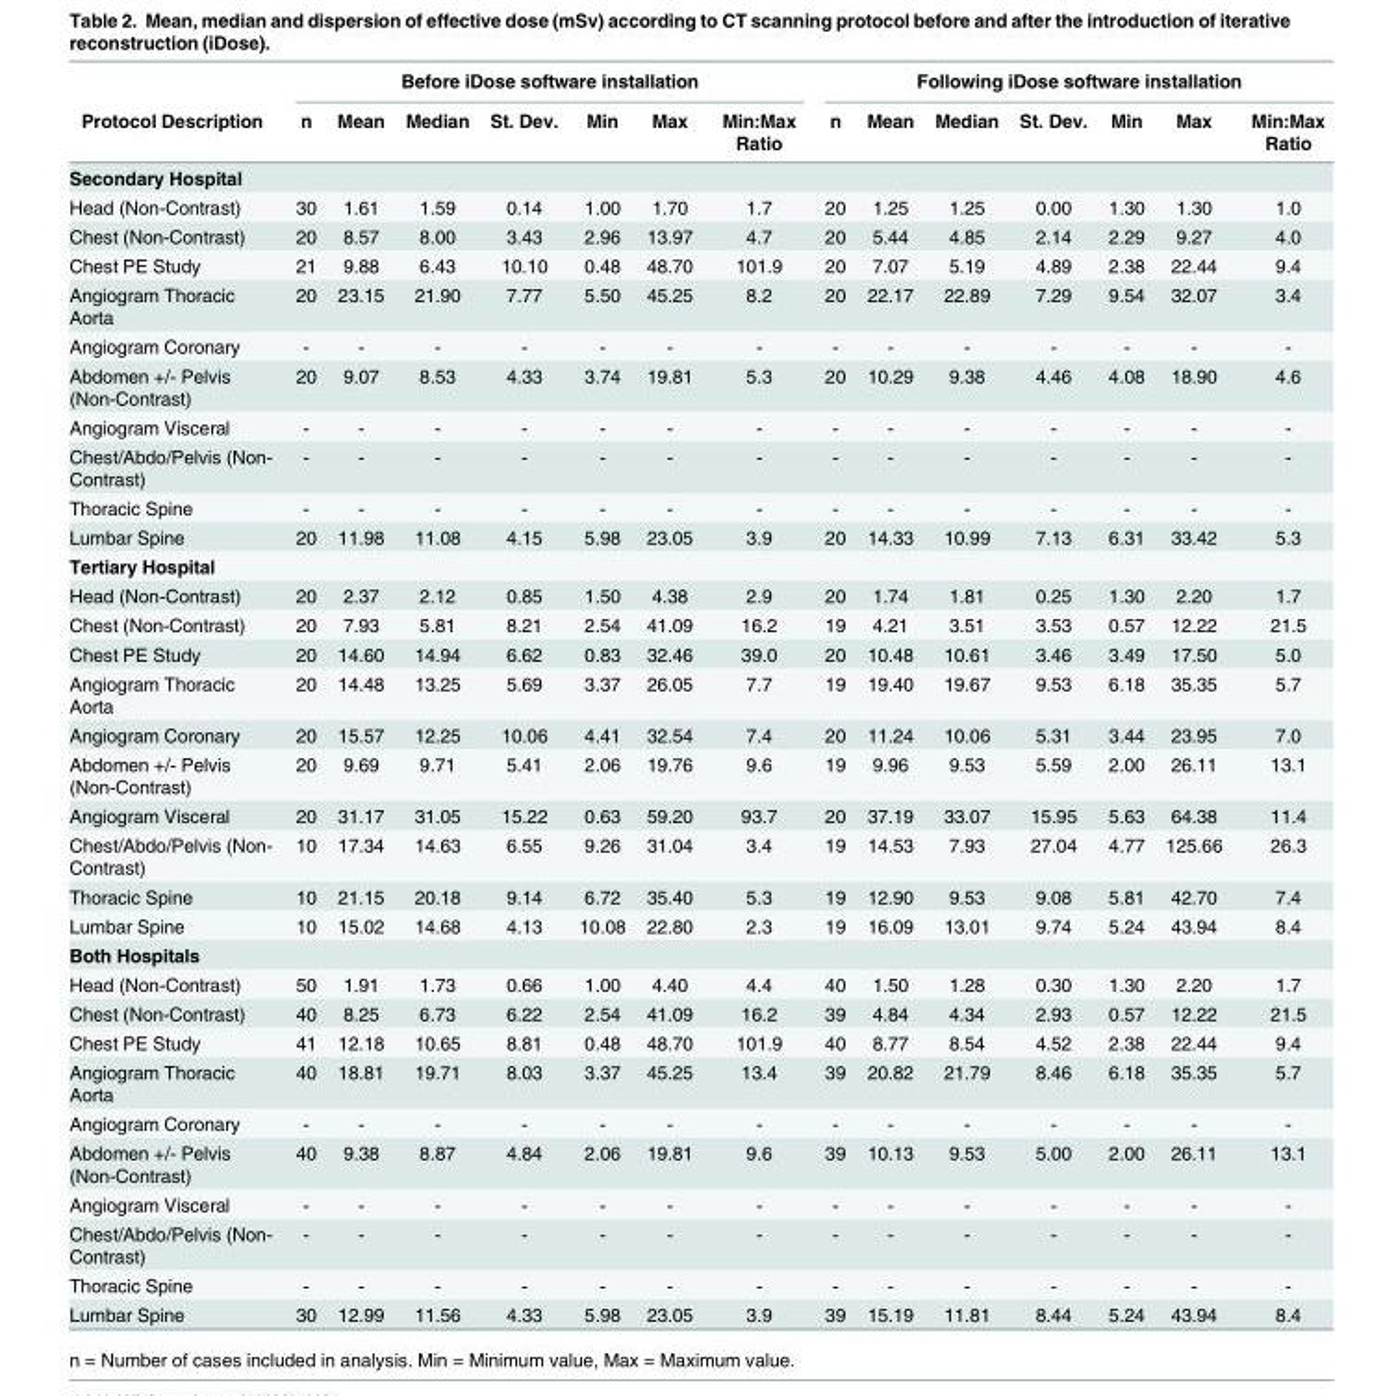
<table><thead><tr><td rowspan="2">Protocol Description</td><td colspan="7">Before iDose software installation</td><td colspan="7">Following iDose software installation</td></tr><tr><td>n</td><td>Mean</td><td>Median</td><td>St. Dev.</td><td>Min</td><td>Max</td><td>Min:Max Ratio</td><td>n</td><td>Mean</td><td>Median</td><td>St. Dev.</td><td>Min</td><td>Max</td><td>Min:Max Ratio</td></tr></thead><tbody><tr><td colspan="15">Secondary Hospital</td></tr><tr><td>Head (Non-Contrast)</td><td>30</td><td>1.61</td><td>1.59</td><td>0.14</td><td>1.00</td><td>1.70</td><td>1.7</td><td>20</td><td>1.25</td><td>1.25</td><td>0.00</td><td>1.30</td><td>1.30</td><td>1.0</td></tr><tr><td>Chest (Non-Contrast)</td><td>20</td><td>8.57</td><td>8.00</td><td>3.43</td><td>2.96</td><td>13.97</td><td>4.7</td><td>20</td><td>5.44</td><td>4.85</td><td>2.14</td><td>2.29</td><td>9.27</td><td>4.0</td></tr><tr><td>Chest PE Study</td><td>21</td><td>9.88</td><td>6.43</td><td>10.10</td><td>0.48</td><td>48.70</td><td>101.9</td><td>20</td><td>7.07</td><td>5.19</td><td>4.89</td><td>2.38</td><td>22.44</td><td>9.4</td></tr><tr><td>Angiogram Thoracic Aorta</td><td>20</td><td>23.15</td><td>21.90</td><td>7.77</td><td>5.50</td><td>45.25</td><td>8.2</td><td>20</td><td>22.17</td><td>22.89</td><td>7.29</td><td>9.54</td><td>32.07</td><td>3.4</td></tr><tr><td>Angiogram Coronary</td><td>-</td><td>-</td><td>-</td><td>-</td><td>-</td><td>-</td><td>-</td><td>-</td><td>-</td><td>-</td><td>-</td><td>-</td><td>-</td><td>-</td></tr><tr><td>Abdomen +/- Pelvis (Non-Contrast)</td><td>20</td><td>9.07</td><td>8.53</td><td>4.33</td><td>3.74</td><td>19.81</td><td>5.3</td><td>20</td><td>10.29</td><td>9.38</td><td>4.46</td><td>4.08</td><td>18.90</td><td>4.6</td></tr><tr><td>Angiogram Visceral</td><td>-</td><td>-</td><td>-</td><td>-</td><td>-</td><td>-</td><td>-</td><td>-</td><td>-</td><td>-</td><td>-</td><td>-</td><td>-</td><td>-</td></tr><tr><td>Chest/Abdo/Pelvis (Non- Contrast)</td><td>-</td><td>-</td><td>-</td><td>-</td><td>-</td><td>-</td><td>-</td><td>-</td><td>-</td><td>-</td><td>-</td><td>-</td><td>-</td><td>-</td></tr><tr><td>Thoracic Spine</td><td>-</td><td>-</td><td>-</td><td>-</td><td>-</td><td>-</td><td>-</td><td>-</td><td>-</td><td>-</td><td>-</td><td>-</td><td>-</td><td>-</td></tr><tr><td>Lumbar Spine</td><td>20</td><td>11.98</td><td>11.08</td><td>4.15</td><td>5.98</td><td>23.05</td><td>3.9</td><td>20</td><td>14.33</td><td>10.99</td><td>7.13</td><td>6.31</td><td>33.42</td><td>5.3</td></tr><tr><td colspan="15">Tertiary Hospital</td></tr><tr><td>Head (Non-Contrast)</td><td>20</td><td>2.37</td><td>2.12</td><td>0.85</td><td>1.50</td><td>4.38</td><td>2.9</td><td>20</td><td>1.74</td><td>1.81</td><td>0.25</td><td>1.30</td><td>2.20</td><td>1.7</td></tr><tr><td>Chest (Non-Contrast)</td><td>20</td><td>7.93</td><td>5.81</td><td>8.21</td><td>2.54</td><td>41.09</td><td>16.2</td><td>19</td><td>4.21</td><td>3.51</td><td>3.53</td><td>0.57</td><td>12.22</td><td>21.5</td></tr><tr><td>Chest PE Study</td><td>20</td><td>14.60</td><td>14.94</td><td>6.62</td><td>0.83</td><td>32.46</td><td>39.0</td><td>20</td><td>10.48</td><td>10.61</td><td>3.46</td><td>3.49</td><td>17.50</td><td>5.0</td></tr><tr><td>Angiogram Thoracic Aorta</td><td>20</td><td>14.48</td><td>13.25</td><td>5.69</td><td>3.37</td><td>26.05</td><td>7.7</td><td>19</td><td>19.40</td><td>19.67</td><td>9.53</td><td>6.18</td><td>35.35</td><td>5.7</td></tr><tr><td>Angiogram Coronary</td><td>20</td><td>15.57</td><td>12.25</td><td>10.06</td><td>4.41</td><td>32.54</td><td>7.4</td><td>20</td><td>11.24</td><td>10.06</td><td>5.31</td><td>3.44</td><td>23.95</td><td>7.0</td></tr><tr><td>Abdomen +/- Pelvis (Non-Contrast)</td><td>20</td><td>9.69</td><td>9.71</td><td>5.41</td><td>2.06</td><td>19.76</td><td>9.6</td><td>19</td><td>9.96</td><td>9.53</td><td>5.59</td><td>2.00</td><td>26.11</td><td>13.1</td></tr><tr><td>Angiogram Visceral</td><td>20</td><td>31.17</td><td>31.05</td><td>15.22</td><td>0.63</td><td>59.20</td><td>93.7</td><td>20</td><td>37.19</td><td>33.07</td><td>15.95</td><td>5.63</td><td>64.38</td><td>11.4</td></tr><tr><td>Chest/Abdo/Pelvis (Non- Contrast)</td><td>10</td><td>17.34</td><td>14.63</td><td>6.55</td><td>9.26</td><td>31.04</td><td>3.4</td><td>19</td><td>14.53</td><td>7.93</td><td>27.04</td><td>4.77</td><td>125.66</td><td>26.3</td></tr><tr><td>Thoracic Spine</td><td>10</td><td>21.15</td><td>20.18</td><td>9.14</td><td>6.72</td><td>35.40</td><td>5.3</td><td>19</td><td>12.90</td><td>9.53</td><td>9.08</td><td>5.81</td><td>42.70</td><td>7.4</td></tr><tr><td>Lumbar Spine</td><td>10</td><td>15.02</td><td>14.68</td><td>4.13</td><td>10.08</td><td>22.80</td><td>2.3</td><td>19</td><td>16.09</td><td>13.01</td><td>9.74</td><td>5.24</td><td>43.94</td><td>8.4</td></tr><tr><td colspan="15">Both Hospitals</td></tr><tr><td>Head (Non-Contrast)</td><td>50</td><td>1.91</td><td>1.73</td><td>0.66</td><td>1.00</td><td>4.40</td><td>4.4</td><td>40</td><td>1.50</td><td>1.28</td><td>0.30</td><td>1.30</td><td>2.20</td><td>1.7</td></tr><tr><td>Chest (Non-Contrast)</td><td>40</td><td>8.25</td><td>6.73</td><td>6.22</td><td>2.54</td><td>41.09</td><td>16.2</td><td>39</td><td>4.84</td><td>4.34</td><td>2.93</td><td>0.57</td><td>12.22</td><td>21.5</td></tr><tr><td>Chest PE Study</td><td>41</td><td>12.18</td><td>10.65</td><td>8.81</td><td>0.48</td><td>48.70</td><td>101.9</td><td>40</td><td>8.77</td><td>8.54</td><td>4.52</td><td>2.38</td><td>22.44</td><td>9.4</td></tr><tr><td>Angiogram Thoracic Aorta</td><td>40</td><td>18.81</td><td>19.71</td><td>8.03</td><td>3.37</td><td>45.25</td><td>13.4</td><td>39</td><td>20.82</td><td>21.79</td><td>8.46</td><td>6.18</td><td>35.35</td><td>5.7</td></tr><tr><td>Angiogram Coronary</td><td>-</td><td>-</td><td>-</td><td>-</td><td>-</td><td>-</td><td>-</td><td>-</td><td>-</td><td>-</td><td>-</td><td>-</td><td>-</td><td>-</td></tr><tr><td>Abdomen +/- Pelvis (Non-Contrast)</td><td>40</td><td>9.38</td><td>8.87</td><td>4.84</td><td>2.06</td><td>19.81</td><td>9.6</td><td>39</td><td>10.13</td><td>9.53</td><td>5.00</td><td>2.00</td><td>26.11</td><td>13.1</td></tr><tr><td>Angiogram Visceral</td><td>-</td><td>-</td><td>-</td><td>-</td><td>-</td><td>-</td><td>-</td><td>-</td><td>-</td><td>-</td><td>-</td><td>-</td><td>-</td><td>-</td></tr><tr><td>Chest/Abdo/Pelvis (Non- Contrast)</td><td>-</td><td>-</td><td>-</td><td>-</td><td>-</td><td>-</td><td>-</td><td>-</td><td>-</td><td>-</td><td>-</td><td>-</td><td>-</td><td>-</td></tr><tr><td>Thoracic Spine</td><td>-</td><td>-</td><td>-</td><td>-</td><td>-</td><td>-</td><td>-</td><td>-</td><td>-</td><td>-</td><td>-</td><td>-</td><td>-</td><td>-</td></tr><tr><td>Lumbar Spine</td><td>30</td><td>12.99</td><td>11.56</td><td>4.33</td><td>5.98</td><td>23.05</td><td>3.9</td><td>39</td><td>15.19</td><td>11.81</td><td>8.44</td><td>5.24</td><td>43.94</td><td>8.4</td></tr></tbody></table>